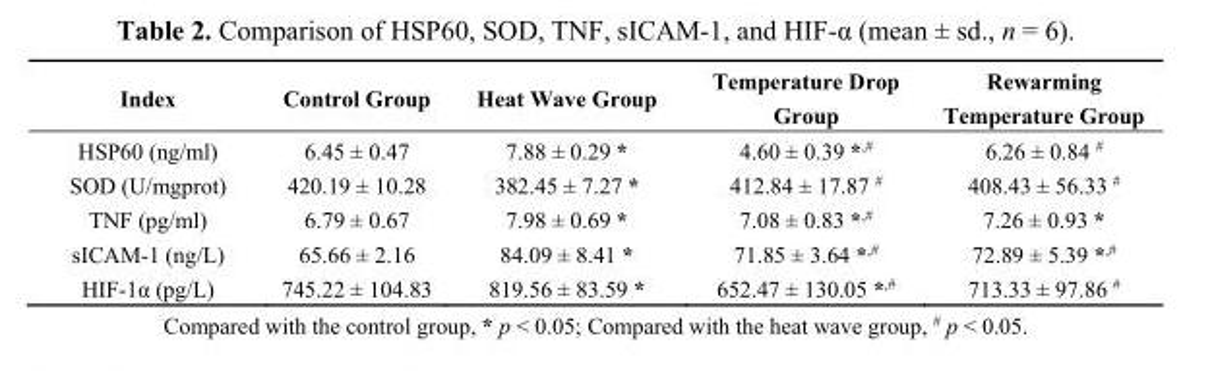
<table><thead><tr><td>Index</td><td>Control Group</td><td>Heat Wave Group</td><td>Temperature Drop Group</td><td>Rewarming Temperature Group</td></tr></thead><tbody><tr><td>HSP60 (ng/ml)</td><td>6.45 ± 0.47</td><td>7.88 ± 0.29 *</td><td>4.60 ± 0.39 *<sup>,#</sup></td><td>6.26 ± 0.84 <sup>#</sup></td></tr><tr><td>SOD (U/mgprot)</td><td>420.19 ± 10.28</td><td>382.45 ± 7.27 *</td><td>412.84 ± 17.87 <sup>#</sup></td><td>408.43 ± 56.33 <sup>#</sup></td></tr><tr><td>TNF (pg/ml)</td><td>6.79 ± 0.67</td><td>7.98 ± 0.69 *</td><td>7.08 ± 0.83 *<sup>,#</sup></td><td>7.26 ± 0.93 *</td></tr><tr><td>sICAM-1 (ng/L)</td><td>65.66 ± 2.16</td><td>84.09 ± 8.41 *</td><td>71.85 ± 3.64 *<sup>,#</sup></td><td>72.89 ± 5.39 *<sup>,#</sup></td></tr><tr><td>HIF-1α (pg/L)</td><td>745.22 ± 104.83</td><td>819.56 ± 83.59 *</td><td>652.47 ± 130.05 *<sup>,#</sup></td><td>713.33 ± 97.86 <sup>#</sup></td></tr></tbody></table>